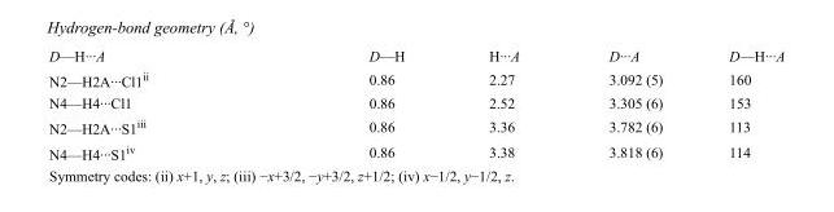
<table><tbody><tr><td>D—H···A</td><td>D—H</td><td>H···A</td><td>D···A</td><td>D—H···A</td></tr><tr><td>N2—H2A···Cl1<sup>ii</sup></td><td>0.86</td><td>2.27</td><td>3.092 (5)</td><td>160</td></tr><tr><td>N4—H4···Cl1</td><td>0.86</td><td>2.52</td><td>3.305 (6)</td><td>153</td></tr><tr><td>N2—H2A···S1<sup>iii</sup></td><td>0.86</td><td>3.36</td><td>3.782 (6)</td><td>113</td></tr><tr><td>N4—H4···S1<sup>iv</sup></td><td>0.86</td><td>3.38</td><td>3.818 (6)</td><td>114</td></tr></tbody></table>